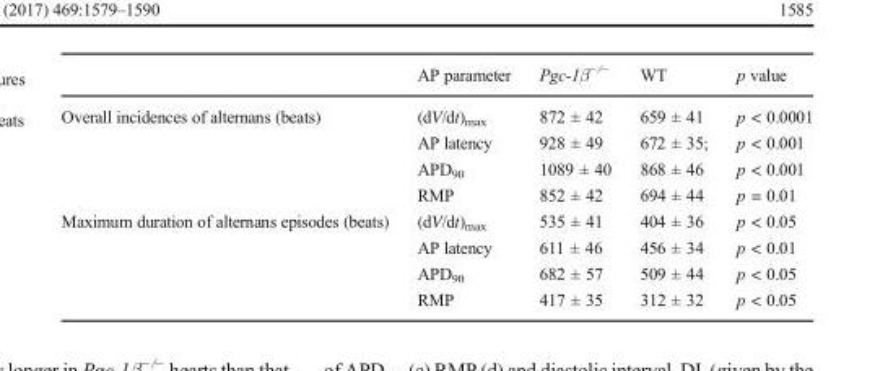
<table><thead><tr><td></td><td>AP parameter</td><td>Pgc-1β<sup>−/−</sup></td><td>WT</td><td>p value</td></tr></thead><tbody><tr><td rowspan="4">Overall incidences of alternans (beats)</td><td>(dV/dt)<sub>max</sub></td><td>872 ± 42</td><td>659 ± 41</td><td>p &lt; 0.0001</td></tr><tr><td>AP latency</td><td>928 ± 49</td><td>672 ± 35;</td><td>p &lt; 0.001</td></tr><tr><td>APD<sub>90</sub></td><td>1089 ± 40</td><td>868 ± 46</td><td>p &lt; 0.001</td></tr><tr><td>RMP</td><td>852 ± 42</td><td>694 ± 44</td><td>p = 0.01</td></tr><tr><td rowspan="4">Maximum duration of alternans episodes (beats)</td><td>(dV/dt)<sub>max</sub></td><td>535 ± 41</td><td>404 ± 36</td><td>p &lt; 0.05</td></tr><tr><td>AP latency</td><td>611 ± 46</td><td>456 ± 34</td><td>p &lt; 0.01</td></tr><tr><td>APD<sub>90</sub></td><td>682 ± 57</td><td>509 ± 44</td><td>p &lt; 0.05</td></tr><tr><td>RMP</td><td>417 ± 35</td><td>312 ± 32</td><td>p &lt; 0.05</td></tr></tbody></table>